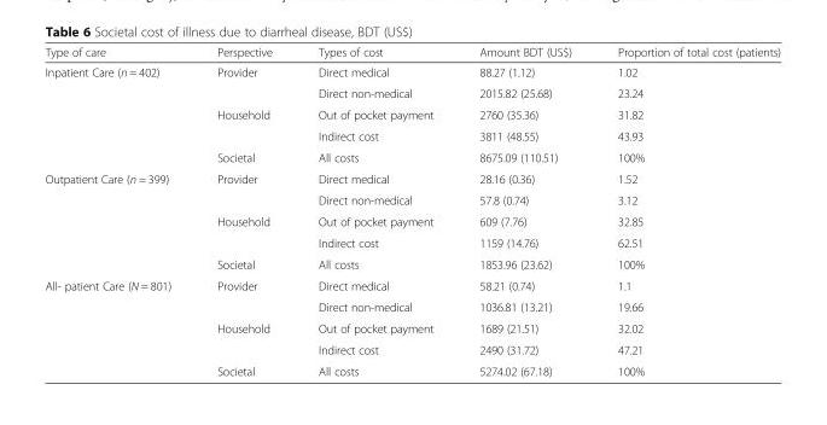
<table><thead><tr><td>Type of care</td><td>Perspective</td><td>Types of cost</td><td>Amount BDT (US$)</td><td>Proportion of total cost (patients)</td></tr></thead><tbody><tr><td rowspan="5">Inpatient Care (n = 402)</td><td rowspan="2">Provider</td><td>Direct medical</td><td>88.27 (1.12)</td><td>1.02</td></tr><tr><td>Direct non-medical</td><td>2015.82 (25.68)</td><td>23.24</td></tr><tr><td rowspan="2">Household</td><td>Out of pocket payment</td><td>2760 (35.36)</td><td>31.82</td></tr><tr><td>Indirect cost</td><td>3811 (48.55)</td><td>43.93</td></tr><tr><td>Societal</td><td>All costs</td><td>8675.09 (110.51)</td><td>100%</td></tr><tr><td rowspan="5">Outpatient Care (n = 399)</td><td rowspan="2">Provider</td><td>Direct medical</td><td>28.16 (0.36)</td><td>1.52</td></tr><tr><td>Direct non-medical</td><td>57.8 (0.74)</td><td>3.12</td></tr><tr><td rowspan="2">Household</td><td>Out of pocket payment</td><td>609 (7.76)</td><td>32.85</td></tr><tr><td>Indirect cost</td><td>1159 (14.76)</td><td>62.51</td></tr><tr><td>Societal</td><td>All costs</td><td>1853.96 (23.62)</td><td>100%</td></tr><tr><td rowspan="5">All- patient Care (N = 801)</td><td rowspan="2">Provider</td><td>Direct medical</td><td>58.21 (0.74)</td><td>1.1</td></tr><tr><td>Direct non-medical</td><td>1036.81 (13.21)</td><td>19.66</td></tr><tr><td rowspan="2">Household</td><td>Out of pocket payment</td><td>1689 (21.51)</td><td>32.02</td></tr><tr><td>Indirect cost</td><td>2490 (31.72)</td><td>47.21</td></tr><tr><td>Societal</td><td>All costs</td><td>5274.02 (67.18)</td><td>100%</td></tr></tbody></table>